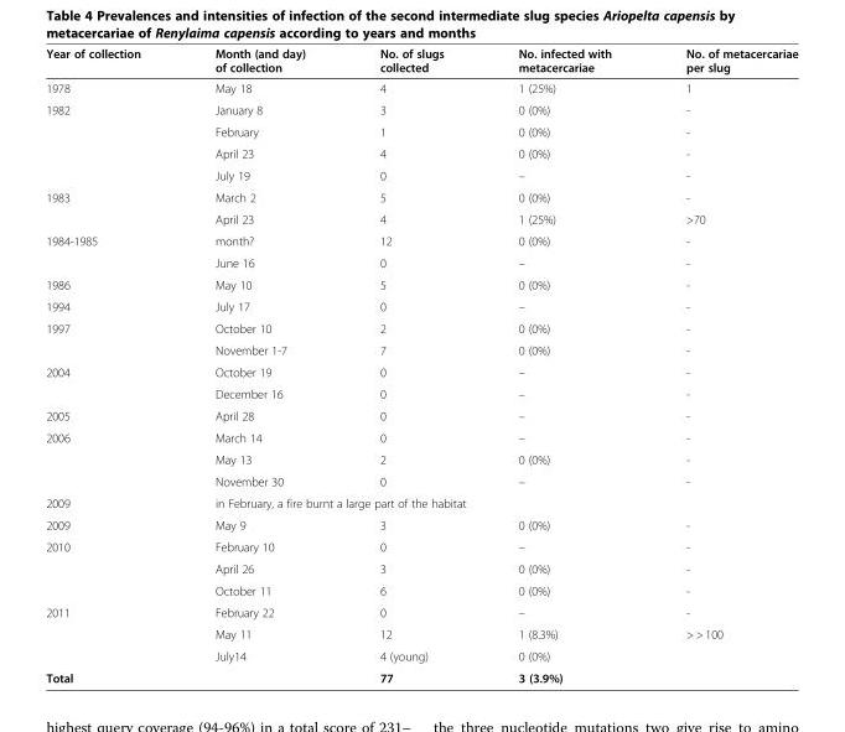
<table><thead><tr><td>Year of collection</td><td>Month (and day) of collection</td><td>No. of slugs collected</td><td>No. infected with metacercariae</td><td>No. of metacercariae per slug</td></tr></thead><tbody><tr><td>1978</td><td>May 18</td><td>4</td><td>1 (25%)</td><td>1</td></tr><tr><td rowspan="4">1982</td><td>January 8</td><td>3</td><td>0 (0%)</td><td>-</td></tr><tr><td>February</td><td>1</td><td>0 (0%)</td><td>-</td></tr><tr><td>April 23</td><td>4</td><td>0 (0%)</td><td>-</td></tr><tr><td>July 19</td><td>0</td><td>–</td><td>-</td></tr><tr><td rowspan="2">1983</td><td>March 2</td><td>5</td><td>0 (0%)</td><td>-</td></tr><tr><td>April 23</td><td>4</td><td>1 (25%)</td><td>&gt;70</td></tr><tr><td rowspan="2">1984-1985</td><td>month?</td><td>12</td><td>0 (0%)</td><td>-</td></tr><tr><td>June 16</td><td>0</td><td>–</td><td>-</td></tr><tr><td>1986</td><td>May 10</td><td>5</td><td>0 (0%)</td><td>-</td></tr><tr><td>1994</td><td>July 17</td><td>0</td><td>–</td><td>-</td></tr><tr><td rowspan="2">1997</td><td>October 10</td><td>2</td><td>0 (0%)</td><td>-</td></tr><tr><td>November 1-7</td><td>7</td><td>0 (0%)</td><td>-</td></tr><tr><td rowspan="2">2004</td><td>October 19</td><td>0</td><td>–</td><td>-</td></tr><tr><td>December 16</td><td>0</td><td>–</td><td>-</td></tr><tr><td>2005</td><td>April 28</td><td>0</td><td>–</td><td>-</td></tr><tr><td rowspan="3">2006</td><td>March 14</td><td>0</td><td>–</td><td>-</td></tr><tr><td>May 13</td><td>2</td><td>0 (0%)</td><td>-</td></tr><tr><td>November 30</td><td>0</td><td>–</td><td>-</td></tr><tr><td>2009</td><td colspan="4">in February, a fire burnt a large part of the habitat</td></tr><tr><td>2009</td><td>May 9</td><td>3</td><td>0 (0%)</td><td>-</td></tr><tr><td rowspan="3">2010</td><td>February 10</td><td>0</td><td>–</td><td>-</td></tr><tr><td>April 26</td><td>3</td><td>0 (0%)</td><td>-</td></tr><tr><td>October 11</td><td>6</td><td>0 (0%)</td><td>-</td></tr><tr><td rowspan="3">2011</td><td>February 22</td><td>0</td><td>–</td><td>-</td></tr><tr><td>May 11</td><td>12</td><td>1 (8.3%)</td><td>&gt; &gt; 100</td></tr><tr><td>July14</td><td>4 (young)</td><td>0 (0%)</td><td></td></tr><tr><td>Total</td><td></td><td>77</td><td>3 (3.9%)</td><td></td></tr></tbody></table>